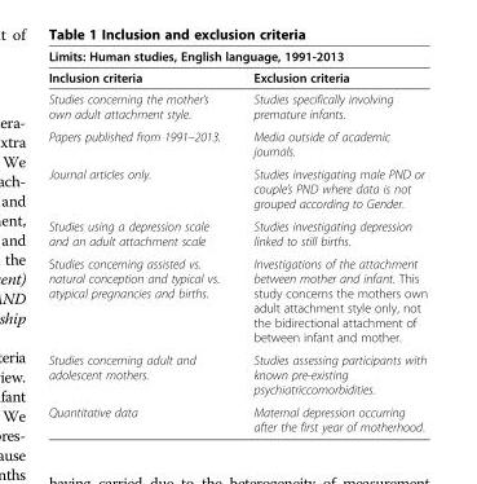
<table><thead><tr><td colspan="2">Limits: Human studies, English language, 1991-2013</td></tr><tr><td>Inclusion criteria</td><td>Exclusion criteria</td></tr></thead><tbody><tr><td>Studies concerning the mother’s own adult attachment style.</td><td>Studies specifically involving premature infants.</td></tr><tr><td>Papers published from 1991–2013.</td><td>Media outside of academic journals.</td></tr><tr><td>Journal articles only.</td><td>Studies investigating male PND or couple’s PND where data is not grouped according to Gender.</td></tr><tr><td>Studies using a depression scale and an adult attachment scale</td><td>Studies investigating depression linked to still births.</td></tr><tr><td>Studies concerning assisted vs. natural conception and typical vs. atypical pregnancies and births.</td><td>Investigations of the attachment between mother and infant. This study concerns the mothers own adult attachment style only, not the bidirectional attachment of between infant and mother.</td></tr><tr><td>Studies concerning adult and adolescent mothers.</td><td>Studies assessing participants with known pre-existing psychiatriccomorbidities.</td></tr><tr><td>Quantitative data</td><td>Maternal depression occurring after the first year of motherhood.</td></tr></tbody></table>